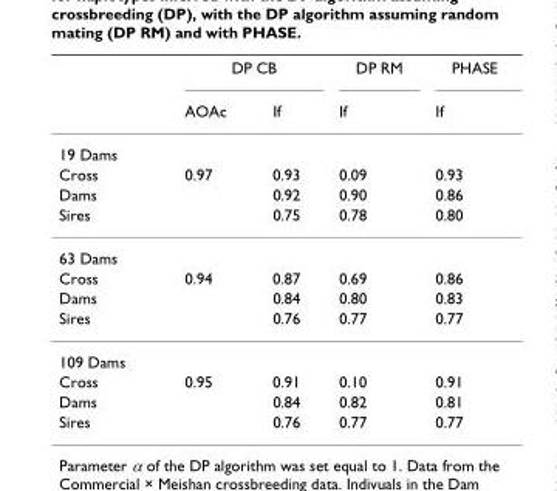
<table><thead><tr><td rowspan="2"></td><td colspan="2">DP CB</td><td rowspan="2">DP RM If</td><td rowspan="2">PHASE If</td></tr><tr><td>AOAc</td><td>If</td></tr></thead><tbody><tr><td colspan="5">19 Dams</td></tr><tr><td>Cross</td><td>0.97</td><td>0.93</td><td>0.09</td><td>0.93</td></tr><tr><td>Dams</td><td></td><td>0.92</td><td>0.90</td><td>0.86</td></tr><tr><td>Sires</td><td></td><td>0.75</td><td>0.78</td><td>0.80</td></tr><tr><td colspan="5">63 Dams</td></tr><tr><td>Cross</td><td>0.94</td><td>0.87</td><td>0.69</td><td>0.86</td></tr><tr><td>Dams</td><td></td><td>0.84</td><td>0.80</td><td>0.83</td></tr><tr><td>Sires</td><td></td><td>0.76</td><td>0.77</td><td>0.77</td></tr><tr><td colspan="5">109 Dams</td></tr><tr><td>Cross</td><td>0.95</td><td>0.91</td><td>0.10</td><td>0.91</td></tr><tr><td>Dams</td><td></td><td>0.84</td><td>0.82</td><td>0.81</td></tr><tr><td>Sires</td><td></td><td>0.76</td><td>0.77</td><td>0.77</td></tr></tbody></table>